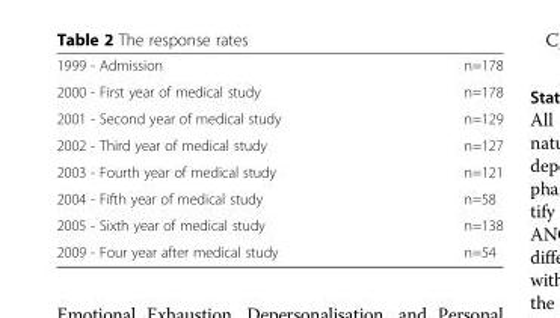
<table><tbody><tr><td>1999 - Admission</td><td>n=178</td></tr><tr><td>2000 - First year of medical study</td><td>n=178</td></tr><tr><td>2001 - Second year of medical study</td><td>n=129</td></tr><tr><td>2002 - Third year of medical study</td><td>n=127</td></tr><tr><td>2003 - Fourth year of medical study</td><td>n=121</td></tr><tr><td>2004 - Fifth year of medical study</td><td>n=58</td></tr><tr><td>2005 - Sixth year of medical study</td><td>n=138</td></tr><tr><td>2009 - Four year after medical study</td><td>n=54</td></tr></tbody></table>